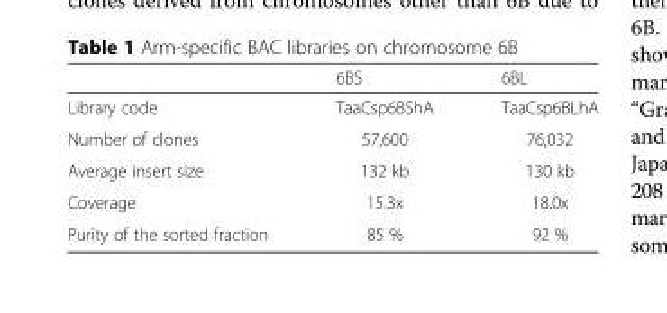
<table><thead><tr><td></td><td>6BS</td><td>6BL</td></tr></thead><tbody><tr><td>Library code</td><td>TaaCsp6BShA</td><td>TaaCsp6BLhA</td></tr><tr><td>Number of clones</td><td>57,600</td><td>76,032</td></tr><tr><td>Average insert size</td><td>132 kb</td><td>130 kb</td></tr><tr><td>Coverage</td><td>15.3x</td><td>18.0x</td></tr><tr><td>Purity of the sorted fraction</td><td>85 %</td><td>92 %</td></tr></tbody></table>